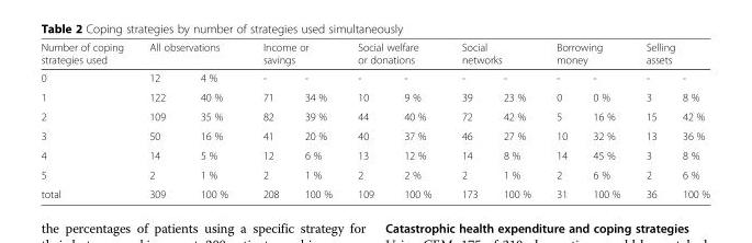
<table><thead><tr><td rowspan="2">Number of coping strategies used 0</td><td colspan="2">All observations</td><td colspan="2">Income or savings</td><td colspan="2">Social welfare or donations</td><td colspan="2">Social networks</td><td colspan="2">Borrowing money</td><td colspan="2">Selling assets</td></tr><tr><td>12</td><td>4 %</td><td>-</td><td>-</td><td>-</td><td>-</td><td>-</td><td>-</td><td>-</td><td>-</td><td>-</td><td>-</td></tr></thead><tbody><tr><td>1</td><td>122</td><td>40 %</td><td>71</td><td>34 %</td><td>10</td><td>9 %</td><td>39</td><td>23 %</td><td>0</td><td>0 %</td><td>3</td><td>8 %</td></tr><tr><td>2</td><td>109</td><td>35 %</td><td>82</td><td>39 %</td><td>44</td><td>40 %</td><td>72</td><td>42 %</td><td>5</td><td>16 %</td><td>15</td><td>42 %</td></tr><tr><td>3</td><td>50</td><td>16 %</td><td>41</td><td>20 %</td><td>40</td><td>37 %</td><td>46</td><td>27 %</td><td>10</td><td>32 %</td><td>13</td><td>36 %</td></tr><tr><td>4</td><td>14</td><td>5 %</td><td>12</td><td>6 %</td><td>13</td><td>12 %</td><td>14</td><td>8 %</td><td>14</td><td>45 %</td><td>3</td><td>8 %</td></tr><tr><td>5</td><td>2</td><td>1 %</td><td>2</td><td>1 %</td><td>2</td><td>2 %</td><td>2</td><td>1 %</td><td>2</td><td>6 %</td><td>2</td><td>6 %</td></tr><tr><td>total</td><td>309</td><td>100 %</td><td>208</td><td>100 %</td><td>109</td><td>100 %</td><td>173</td><td>100 %</td><td>31</td><td>100 %</td><td>36</td><td>100 %</td></tr></tbody></table>